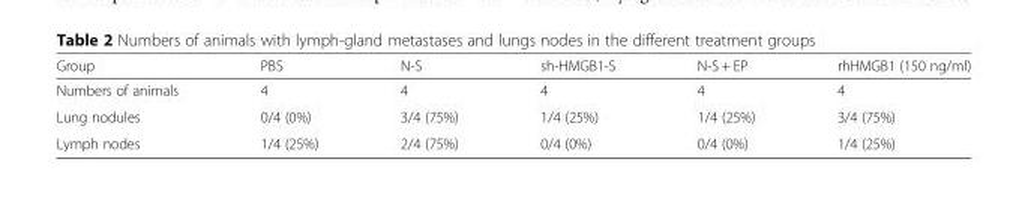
<table><thead><tr><td>Group</td><td>PBS</td><td>N-S</td><td>sh-HMGB1-S</td><td>N-S + EP</td><td>rhHMGB1 (150 ng/ml)</td></tr></thead><tbody><tr><td>Numbers of animals</td><td>4</td><td>4</td><td>4</td><td>4</td><td>4</td></tr><tr><td>Lung nodules</td><td>0/4 (0%)</td><td>3/4 (75%)</td><td>1/4 (25%)</td><td>1/4 (25%)</td><td>3/4 (75%)</td></tr><tr><td>Lymph nodes</td><td>1/4 (25%)</td><td>2/4 (75%)</td><td>0/4 (0%)</td><td>0/4 (0%)</td><td>1/4 (25%)</td></tr></tbody></table>